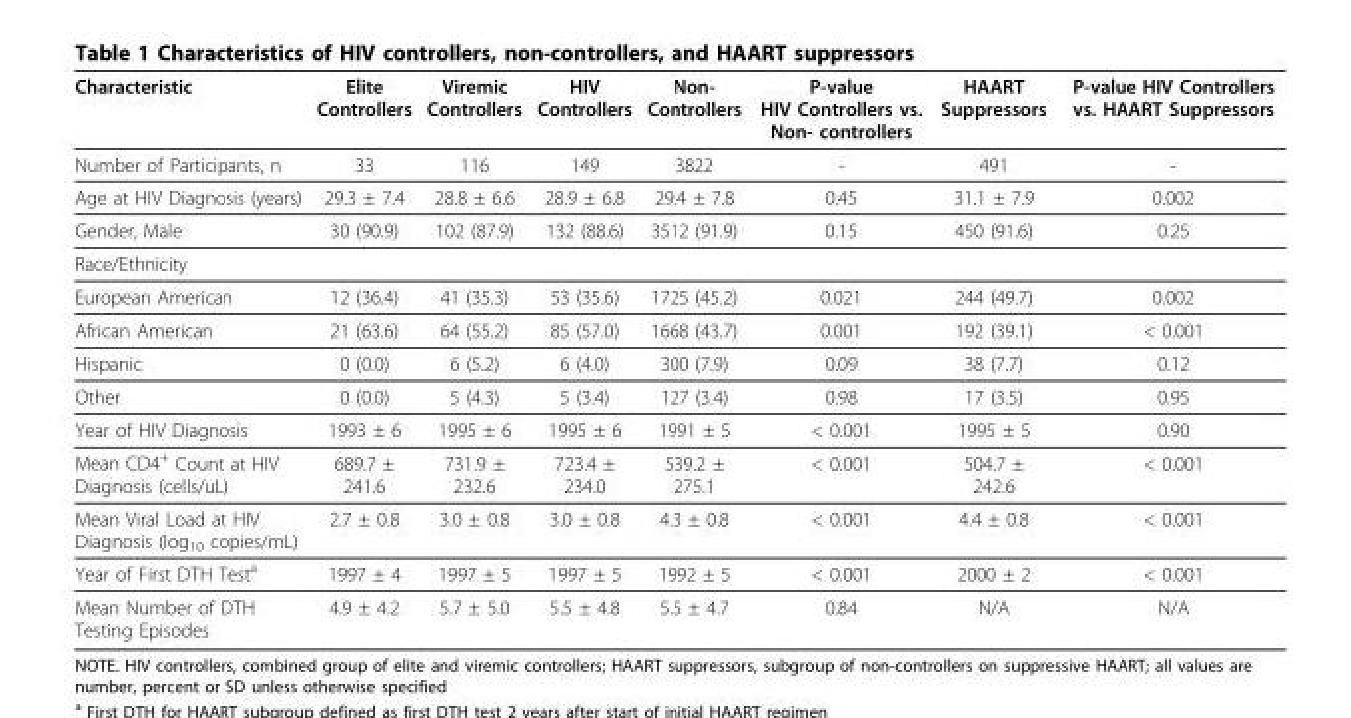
<table><thead><tr><td>Characteristic</td><td>Elite Controllers</td><td>Viremic Controllers</td><td>HIV Controllers</td><td>Non- Controllers</td><td>P-value HIV Controllers vs. Non- controllers</td><td>HAART Suppressors</td><td>P-value HIV Controllers vs. HAART Suppressors</td></tr></thead><tbody><tr><td>Number of Participants, n</td><td>33</td><td>116</td><td>149</td><td>3822</td><td>-</td><td>491</td><td>-</td></tr><tr><td>Age at HIV Diagnosis (years)</td><td>29.3 ± 7.4</td><td>28.8 ± 6.6</td><td>28.9 ± 6.8</td><td>29.4 ± 7.8</td><td>0.45</td><td>31.1 ± 7.9</td><td>0.002</td></tr><tr><td>Gender, Male</td><td>30 (90.9)</td><td>102 (87.9)</td><td>132 (88.6)</td><td>3512 (91.9)</td><td>0.15</td><td>450 (91.6)</td><td>0.25</td></tr><tr><td colspan="8">Race/Ethnicity</td></tr><tr><td>European American</td><td>12 (36.4)</td><td>41 (35.3)</td><td>53 (35.6)</td><td>1725 (45.2)</td><td>0.021</td><td>244 (49.7)</td><td>0.002</td></tr><tr><td>African American</td><td>21 (63.6)</td><td>64 (55.2)</td><td>85 (57.0)</td><td>1668 (43.7)</td><td>0.001</td><td>192 (39.1)</td><td>&lt; 0.001</td></tr><tr><td>Hispanic</td><td>0 (0.0)</td><td>6 (5.2)</td><td>6 (4.0)</td><td>300 (7.9)</td><td>0.09</td><td>38 (7.7)</td><td>0.12</td></tr><tr><td>Other</td><td>0 (0.0)</td><td>5 (4.3)</td><td>5 (3.4)</td><td>127 (3.4)</td><td>0.98</td><td>17 (3.5)</td><td>0.95</td></tr><tr><td>Year of HIV Diagnosis</td><td>1993 ± 6</td><td>1995 ± 6</td><td>1995 ± 6</td><td>1991 ± 5</td><td>&lt; 0.001</td><td>1995 ± 5</td><td>0.90</td></tr><tr><td>Mean CD4<sup>+</sup> Count at HIV Diagnosis (cells/uL)</td><td>689.7 ± 241.6</td><td>731.9 ± 232.6</td><td>723.4 ± 234.0</td><td>539.2 ± 275.1</td><td>&lt; 0.001</td><td>504.7 ± 242.6</td><td>&lt; 0.001</td></tr><tr><td>Mean Viral Load at HIV Diagnosis (log<sub>10</sub> copies/mL)</td><td>2.7 ± 0.8</td><td>3.0 ± 0.8</td><td>3.0 ± 0.8</td><td>4.3 ± 0.8</td><td>&lt; 0.001</td><td>4.4 ± 0.8</td><td>&lt; 0.001</td></tr><tr><td>Year of First DTH Test<sup>a</sup></td><td>1997 ± 4</td><td>1997 ± 5</td><td>1997 ± 5</td><td>1992 ± 5</td><td>&lt; 0.001</td><td>2000 ± 2</td><td>&lt; 0.001</td></tr><tr><td>Mean Number of DTH Testing Episodes</td><td>4.9 ± 4.2</td><td>5.7 ± 5.0</td><td>5.5 ± 4.8</td><td>5.5 ± 4.7</td><td>0.84</td><td>N/A</td><td>N/A</td></tr></tbody></table>